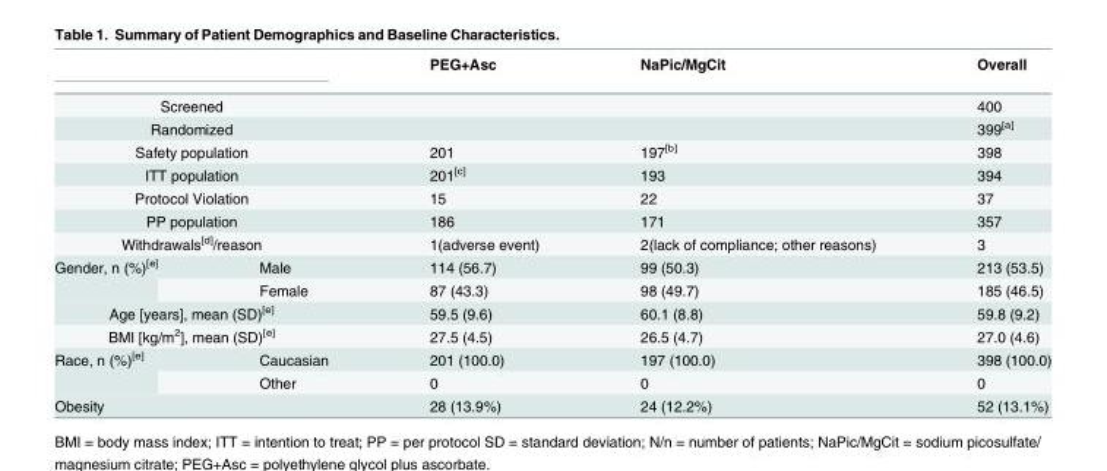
<table><thead><tr><td></td><td></td><td>PEG+Asc</td><td>NaPic/MgCit</td><td>Overall</td></tr></thead><tbody><tr><td colspan="2">Screened</td><td></td><td></td><td>400</td></tr><tr><td colspan="2">Randomized</td><td></td><td></td><td>399<sup>[a]</sup></td></tr><tr><td colspan="2">Safety population</td><td>201</td><td>197<sup>[b]</sup></td><td>398</td></tr><tr><td colspan="2">ITT population</td><td>201<sup>[c]</sup></td><td>193</td><td>394</td></tr><tr><td colspan="2">Protocol Violation</td><td>15</td><td>22</td><td>37</td></tr><tr><td colspan="2">PP population</td><td>186</td><td>171</td><td>357</td></tr><tr><td colspan="2">Withdrawals<sup>[d]</sup>/reason</td><td>1(adverse event)</td><td>2(lack of compliance; other reasons)</td><td>3</td></tr><tr><td rowspan="2">Gender, n (%)<sup>[e]</sup></td><td>Male</td><td>114 (56.7)</td><td>99 (50.3)</td><td>213 (53.5)</td></tr><tr><td>Female</td><td>87 (43.3)</td><td>98 (49.7)</td><td>185 (46.5)</td></tr><tr><td colspan="2">Age [years], mean (SD)<sup>[e]</sup></td><td>59.5 (9.6)</td><td>60.1 (8.8)</td><td>59.8 (9.2)</td></tr><tr><td colspan="2">BMI [kg/m<sup>2</sup>], mean (SD)<sup>[e]</sup></td><td>27.5 (4.5)</td><td>26.5 (4.7)</td><td>27.0 (4.6)</td></tr><tr><td rowspan="2">Race, n (%)<sup>[e]</sup></td><td>Caucasian</td><td>201 (100.0)</td><td>197 (100.0)</td><td>398 (100.0)</td></tr><tr><td>Other</td><td>0</td><td>0</td><td>0</td></tr><tr><td>Obesity</td><td></td><td>28 (13.9%)</td><td>24 (12.2%)</td><td>52 (13.1%)</td></tr></tbody></table>